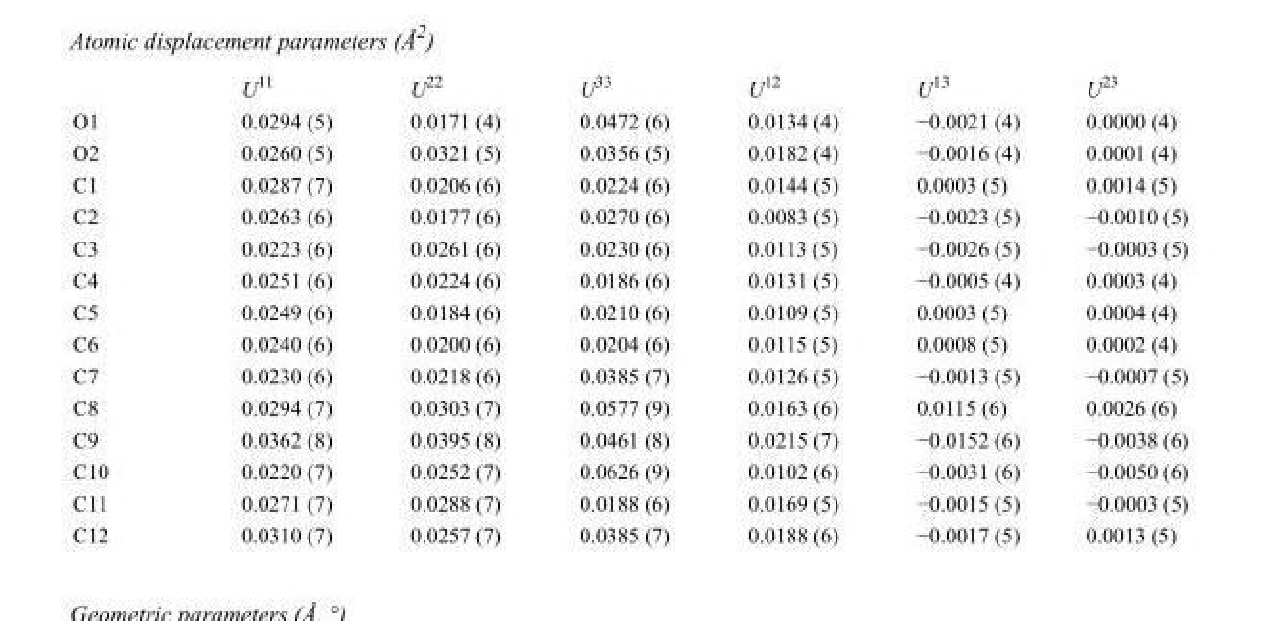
<table><thead><tr><td></td><td>U<sup>11</sup></td><td>U<sup>22</sup></td><td>U<sup>33</sup></td><td>U<sup>12</sup></td><td>U<sup>13</sup></td><td>U<sup>23</sup></td></tr></thead><tbody><tr><td>O1</td><td>0.0294 (5)</td><td>0.0171 (4)</td><td>0.0472 (6)</td><td>0.0134 (4)</td><td>−0.0021 (4)</td><td>0.0000 (4)</td></tr><tr><td>O2</td><td>0.0260 (5)</td><td>0.0321 (5)</td><td>0.0356 (5)</td><td>0.0182 (4)</td><td>−0.0016 (4)</td><td>0.0001 (4)</td></tr><tr><td>C1</td><td>0.0287 (7)</td><td>0.0206 (6)</td><td>0.0224 (6)</td><td>0.0144 (5)</td><td>0.0003 (5)</td><td>0.0014 (5)</td></tr><tr><td>C2</td><td>0.0263 (6)</td><td>0.0177 (6)</td><td>0.0270 (6)</td><td>0.0083 (5)</td><td>−0.0023 (5)</td><td>−0.0010 (5)</td></tr><tr><td>C3</td><td>0.0223 (6)</td><td>0.0261 (6)</td><td>0.0230 (6)</td><td>0.0113 (5)</td><td>−0.0026 (5)</td><td>−0.0003 (5)</td></tr><tr><td>C4</td><td>0.0251 (6)</td><td>0.0224 (6)</td><td>0.0186 (6)</td><td>0.0131 (5)</td><td>−0.0005 (4)</td><td>0.0003 (4)</td></tr><tr><td>C5</td><td>0.0249 (6)</td><td>0.0184 (6)</td><td>0.0210 (6)</td><td>0.0109 (5)</td><td>0.0003 (5)</td><td>0.0004 (4)</td></tr><tr><td>C6</td><td>0.0240 (6)</td><td>0.0200 (6)</td><td>0.0204 (6)</td><td>0.0115 (5)</td><td>0.0008 (5)</td><td>0.0002 (4)</td></tr><tr><td>C7</td><td>0.0230 (6)</td><td>0.0218 (6)</td><td>0.0385 (7)</td><td>0.0126 (5)</td><td>−0.0013 (5)</td><td>−0.0007 (5)</td></tr><tr><td>C8</td><td>0.0294 (7)</td><td>0.0303 (7)</td><td>0.0577 (9)</td><td>0.0163 (6)</td><td>0.0115 (6)</td><td>0.0026 (6)</td></tr><tr><td>C9</td><td>0.0362 (8)</td><td>0.0395 (8)</td><td>0.0461 (8)</td><td>0.0215 (7)</td><td>−0.0152 (6)</td><td>−0.0038 (6)</td></tr><tr><td>C10</td><td>0.0220 (7)</td><td>0.0252 (7)</td><td>0.0626 (9)</td><td>0.0102 (6)</td><td>−0.0031 (6)</td><td>−0.0050 (6)</td></tr><tr><td>C11</td><td>0.0271 (7)</td><td>0.0288 (7)</td><td>0.0188 (6)</td><td>0.0169 (5)</td><td>−0.0015 (5)</td><td>−0.0003 (5)</td></tr><tr><td>C12</td><td>0.0310 (7)</td><td>0.0257 (7)</td><td>0.0385 (7)</td><td>0.0188 (6)</td><td>−0.0017 (5)</td><td>0.0013 (5)</td></tr></tbody></table>